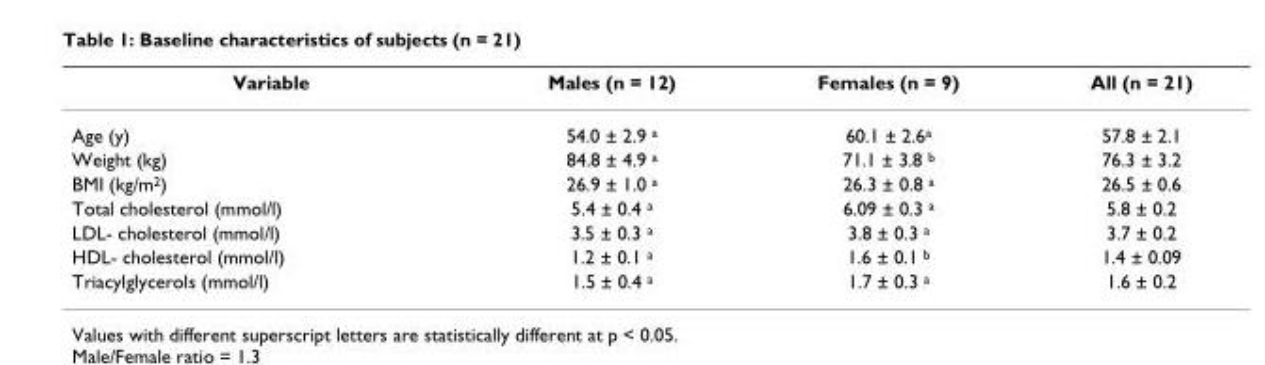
<table><thead><tr><td>Variable</td><td>Males (n = 12)</td><td>Females (n = 9)</td><td>All (n = 21)</td></tr></thead><tbody><tr><td>Age (y)</td><td>54.0 ± 2.9 <sup>a</sup></td><td>60.1 ± 2.6<sup>a</sup></td><td>57.8 ± 2.1</td></tr><tr><td>Weight (kg)</td><td>84.8 ± 4.9 <sup>a</sup></td><td>71.1 ± 3.8 <sup>b</sup></td><td>76.3 ± 3.2</td></tr><tr><td>BMI (kg/m<sup>2</sup>)</td><td>26.9 ± 1.0 <sup>a</sup></td><td>26.3 ± 0.8 <sup>a</sup></td><td>26.5 ± 0.6</td></tr><tr><td>Total cholesterol (mmol/l)</td><td>5.4 ± 0.4 <sup>a</sup></td><td>6.09 ± 0.3 <sup>a</sup></td><td>5.8 ± 0.2</td></tr><tr><td>LDL- cholesterol (mmol/l)</td><td>3.5 ± 0.3 <sup>a</sup></td><td>3.8 ± 0.3 <sup>a</sup></td><td>3.7 ± 0.2</td></tr><tr><td>HDL- cholesterol (mmol/l)</td><td>1.2 ± 0.1 <sup>a</sup></td><td>1.6 ± 0.1 <sup>b</sup></td><td>1.4 ± 0.09</td></tr><tr><td>Triacylglycerols (mmol/l)</td><td>1.5 ± 0.4 <sup>a</sup></td><td>1.7 ± 0.3 <sup>a</sup></td><td>1.6 ± 0.2</td></tr></tbody></table>